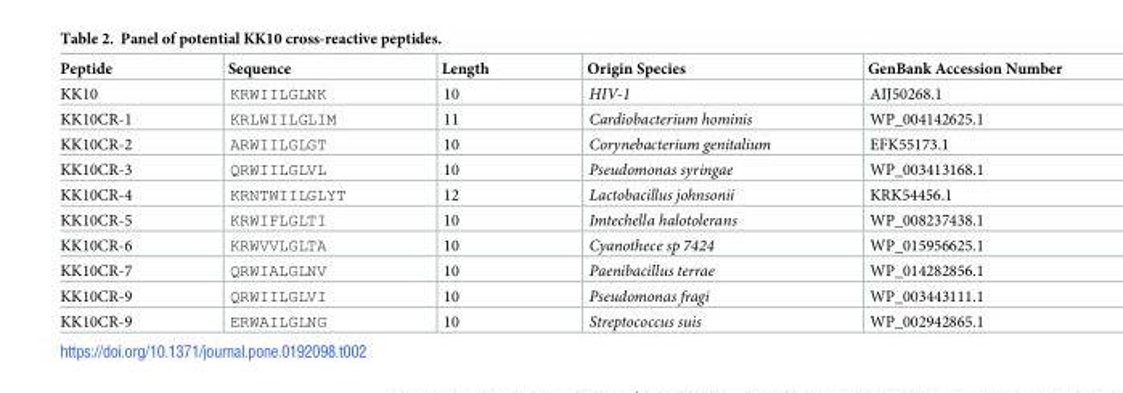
<table><thead><tr><td>Peptide</td><td>Sequence</td><td>Length</td><td>Origin Species</td><td>GenBank Accession Number</td></tr></thead><tbody><tr><td>KK10</td><td>KRWIILGLNK</td><td>10</td><td>HIV-1</td><td>AIJ50268.1</td></tr><tr><td>KK10CR-1</td><td>KRLWIILGLIM</td><td>11</td><td>Cardiobacterium hominis</td><td>WP_004142625.1</td></tr><tr><td>KK10CR-2</td><td>ARWIILGLGT</td><td>10</td><td>Corynebacterium genitalium</td><td>EFK55173.1</td></tr><tr><td>KK10CR-3</td><td>QRWIILGLVL</td><td>10</td><td>Pseudomonas syringae</td><td>WP_003413168.1</td></tr><tr><td>KK10CR-4</td><td>KRNTWIILGLYT</td><td>12</td><td>Lactobacillus johnsonii</td><td>KRK54456.1</td></tr><tr><td>KK10CR-5</td><td>KRWIFLGLTI</td><td>10</td><td>Imtechella halotolerans</td><td>WP_008237438.1</td></tr><tr><td>KK10CR-6</td><td>KRWVVLGLTA</td><td>10</td><td>Cyanothece sp 7424</td><td>WP_015956625.1</td></tr><tr><td>KK10CR-7</td><td>QRWIALGLNV</td><td>10</td><td>Paenibacillus terrae</td><td>WP_014282856.1</td></tr><tr><td>KK10CR-9</td><td>QRWIILGLVI</td><td>10</td><td>Pseudomonas fragi</td><td>WP_003443111.1</td></tr><tr><td>KK10CR-9</td><td>ERWAILGLNG</td><td>10</td><td>Streptococcus suis</td><td>WP_002942865.1</td></tr></tbody></table>